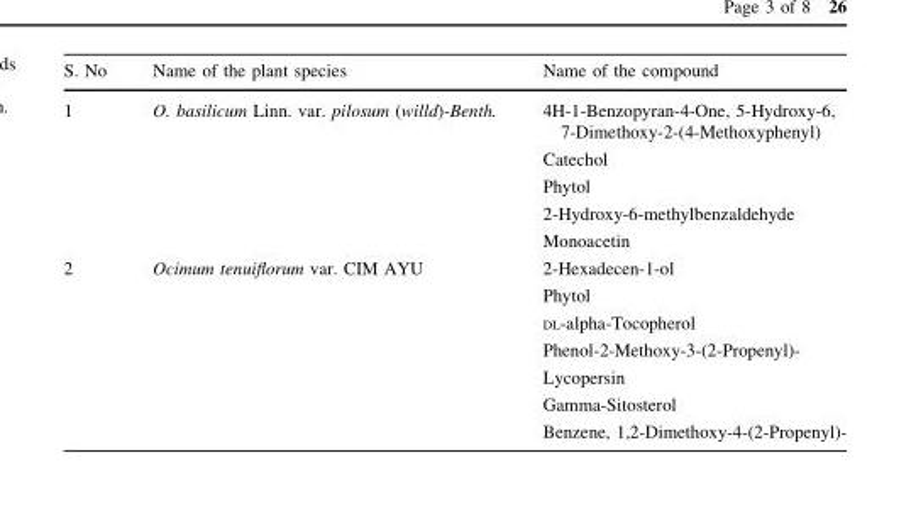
<table><thead><tr><td>S. No</td><td>Name of the plant species</td><td>Name of the compound</td></tr></thead><tbody><tr><td>1</td><td>O. basilicum Linn. var. pilosum (willd)-Benth.</td><td>4H-1-Benzopyran-4-One, 5-Hydroxy-6, 7-Dimethoxy-2-(4-Methoxyphenyl) Catechol Phytol 2-Hydroxy-6-methylbenzaldehyde Monoacetin</td></tr><tr><td>2</td><td>Ocimum tenuiflorum var. CIM AYU</td><td>2-Hexadecen-1-ol Phytol DL-alpha-Tocopherol Phenol-2-Methoxy-3-(2-Propenyl)- Lycopersin Gamma-Sitosterol Benzene, 1,2-Dimethoxy-4-(2-Propenyl)-</td></tr></tbody></table>